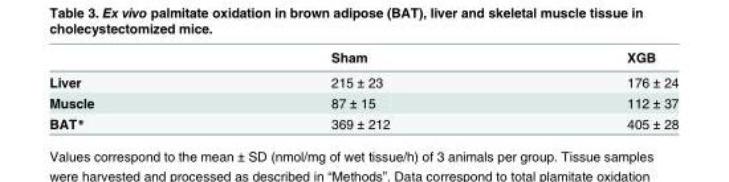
<table><thead><tr><td></td><td>Sham</td><td>XGB</td></tr></thead><tbody><tr><td>Liver</td><td>215 ± 23</td><td>176 ± 24</td></tr><tr><td>Muscle</td><td>87 ± 15</td><td>112 ± 37</td></tr><tr><td>BAT*</td><td>369 ± 212</td><td>405 ± 28</td></tr></tbody></table>